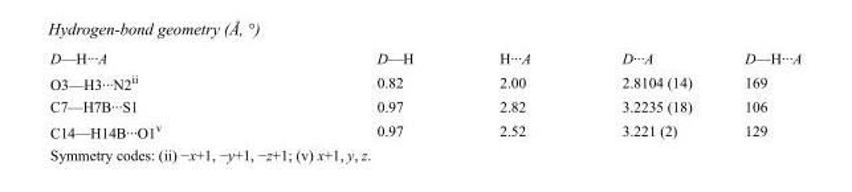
<table><tbody><tr><td>D—H···A</td><td>D—H</td><td>H···A</td><td>D···A</td><td>D—H···A</td></tr><tr><td>O3—H3···N2<sup>ii</sup></td><td>0.82</td><td>2.00</td><td>2.8104 (14)</td><td>169</td></tr><tr><td>C7—H7B···S1</td><td>0.97</td><td>2.82</td><td>3.2235 (18)</td><td>106</td></tr><tr><td>C14—H14B···O1<sup>v</sup></td><td>0.97</td><td>2.52</td><td>3.221 (2)</td><td>129</td></tr></tbody></table>